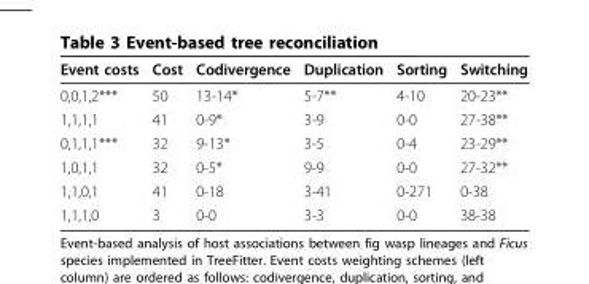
<table><thead><tr><td>Event costs</td><td>Cost</td><td>Codivergence</td><td>Duplication</td><td>Sorting</td><td>Switching</td></tr></thead><tbody><tr><td>0,0,1,2***</td><td>50</td><td>13-14*</td><td>5-7**</td><td>4-10</td><td>20-23**</td></tr><tr><td>1,1,1,1</td><td>41</td><td>0-9*</td><td>3-9</td><td>0-0</td><td>27-38**</td></tr><tr><td>0,1,1,1***</td><td>32</td><td>9-13*</td><td>3-5</td><td>0-4</td><td>23-29**</td></tr><tr><td>1,0,1,1</td><td>32</td><td>0-5*</td><td>9-9</td><td>0-0</td><td>27-32**</td></tr><tr><td>1,1,0,1</td><td>41</td><td>0-18</td><td>3-41</td><td>0-271</td><td>0-38</td></tr><tr><td>1,1,1,0</td><td>3</td><td>0-0</td><td>3-3</td><td>0-0</td><td>38-38</td></tr></tbody></table>